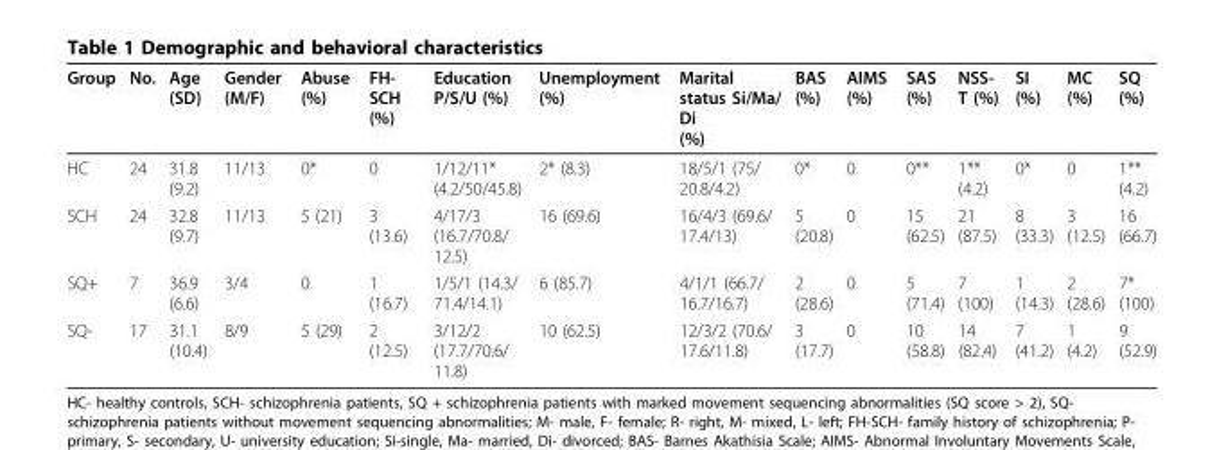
<table><thead><tr><td>Group</td><td>No.</td><td>Age (SD)</td><td>Gender (M/F)</td><td>Abuse (%)</td><td>FH- SCH (%)</td><td>Education P/S/U (%)</td><td>Unemployment (%)</td><td>Marital status Si/Ma/ Di (%)</td><td>BAS (%)</td><td>AIMS (%)</td><td>SAS (%)</td><td>NSS- T (%)</td><td>SI (%)</td><td>MC (%)</td><td>SQ (%)</td></tr></thead><tbody><tr><td>HC</td><td>24</td><td>31.8 (9.2)</td><td>11/13</td><td>0*</td><td>0</td><td>1/12/11* (4.2/50/45.8)</td><td>2* (8.3)</td><td>18/5/1 (75/ 20.8/4.2)</td><td>0*</td><td>0</td><td>0**</td><td>1** (4.2)</td><td>0*</td><td>0</td><td>1** (4.2)</td></tr><tr><td>SCH</td><td>24</td><td>32.8 (9.7)</td><td>11/13</td><td>5 (21)</td><td>3 (13.6)</td><td>4/17/3 (16.7/70.8/ 12.5)</td><td>16 (69.6)</td><td>16/4/3 (69.6/ 17.4/13)</td><td>5 (20.8)</td><td>0</td><td>15 (62.5)</td><td>21 (87.5)</td><td>8 (33.3)</td><td>3 (12.5)</td><td>16 (66.7)</td></tr><tr><td>SQ+</td><td>7</td><td>36.9 (6.6)</td><td>3/4</td><td>0</td><td>1 (16.7)</td><td>1/5/1 (14.3/ 71.4/14.1)</td><td>6 (85.7)</td><td>4/1/1 (66.7/ 16.7/16.7)</td><td>2 (28.6)</td><td>0</td><td>5 (71.4)</td><td>7 (100)</td><td>1 (14.3)</td><td>2 (28.6)</td><td>7* (100)</td></tr><tr><td>SQ-</td><td>17</td><td>31.1 (10.4)</td><td>8/9</td><td>5 (29)</td><td>2 (12.5)</td><td>3/12/2 (17.7/70.6/ 11.8)</td><td>10 (62.5)</td><td>12/3/2 (70.6/ 17.6/11.8)</td><td>3 (17.7)</td><td>0</td><td>10 (58.8)</td><td>14 (82.4)</td><td>7 (41.2)</td><td>1 (4.2)</td><td>9 (52.9)</td></tr></tbody></table>